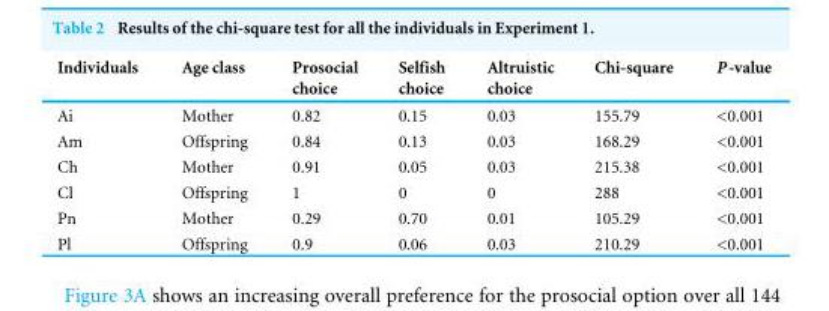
<table><thead><tr><td>Individuals</td><td>Age class</td><td>Prosocial choice</td><td>Selfish choice</td><td>Altruistic choice</td><td>Chi-square</td><td>P-value</td></tr></thead><tbody><tr><td>Ai</td><td>Mother</td><td>0.82</td><td>0.15</td><td>0.03</td><td>155.79</td><td>&lt;0.001</td></tr><tr><td>Am</td><td>Offspring</td><td>0.84</td><td>0.13</td><td>0.03</td><td>168.29</td><td>&lt;0.001</td></tr><tr><td>Ch</td><td>Mother</td><td>0.91</td><td>0.05</td><td>0.03</td><td>215.38</td><td>&lt;0.001</td></tr><tr><td>Cl</td><td>Offspring</td><td>1</td><td>0</td><td>0</td><td>288</td><td>&lt;0.001</td></tr><tr><td>Pn</td><td>Mother</td><td>0.29</td><td>0.70</td><td>0.01</td><td>105.29</td><td>&lt;0.001</td></tr><tr><td>Pl</td><td>Offspring</td><td>0.9</td><td>0.06</td><td>0.03</td><td>210.29</td><td>&lt;0.001</td></tr></tbody></table>